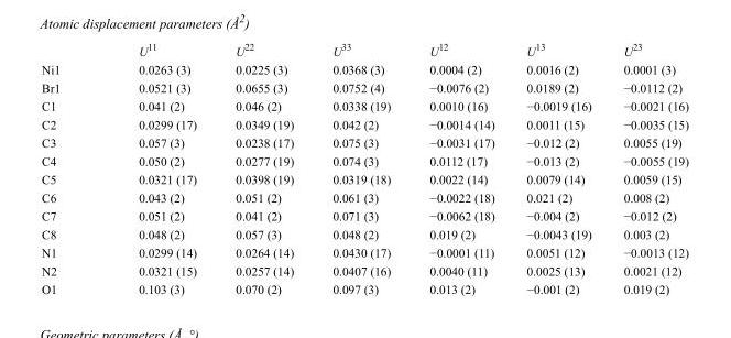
<table><thead><tr><td></td><td>U<sup>11</sup></td><td>U<sup>22</sup></td><td>U<sup>33</sup></td><td>U<sup>12</sup></td><td>U<sup>13</sup></td><td>U<sup>23</sup></td></tr></thead><tbody><tr><td>Ni1</td><td>0.0263 (3)</td><td>0.0225 (3)</td><td>0.0368 (3)</td><td>0.0004 (2)</td><td>0.0016 (2)</td><td>0.0001 (3)</td></tr><tr><td>Br1</td><td>0.0521 (3)</td><td>0.0655 (3)</td><td>0.0752 (4)</td><td>−0.0076 (2)</td><td>0.0189 (2)</td><td>−0.0112 (2)</td></tr><tr><td>C1</td><td>0.041 (2)</td><td>0.046 (2)</td><td>0.0338 (19)</td><td>0.0010 (16)</td><td>−0.0019 (16)</td><td>−0.0021 (16)</td></tr><tr><td>C2</td><td>0.0299 (17)</td><td>0.0349 (19)</td><td>0.042 (2)</td><td>−0.0014 (14)</td><td>0.0011 (15)</td><td>−0.0035 (15)</td></tr><tr><td>C3</td><td>0.057 (3)</td><td>0.0238 (17)</td><td>0.075 (3)</td><td>−0.0031 (17)</td><td>−0.012 (2)</td><td>0.0055 (19)</td></tr><tr><td>C4</td><td>0.050 (2)</td><td>0.0277 (19)</td><td>0.074 (3)</td><td>0.0112 (17)</td><td>−0.013 (2)</td><td>−0.0055 (19)</td></tr><tr><td>C5</td><td>0.0321 (17)</td><td>0.0398 (19)</td><td>0.0319 (18)</td><td>0.0022 (14)</td><td>0.0079 (14)</td><td>0.0059 (15)</td></tr><tr><td>C6</td><td>0.043 (2)</td><td>0.051 (2)</td><td>0.061 (3)</td><td>−0.0022 (18)</td><td>0.021 (2)</td><td>0.008 (2)</td></tr><tr><td>C7</td><td>0.051 (2)</td><td>0.041 (2)</td><td>0.071 (3)</td><td>−0.0062 (18)</td><td>−0.004 (2)</td><td>−0.012 (2)</td></tr><tr><td>C8</td><td>0.048 (2)</td><td>0.057 (3)</td><td>0.048 (2)</td><td>0.019 (2)</td><td>−0.0043 (19)</td><td>0.003 (2)</td></tr><tr><td>N1</td><td>0.0299 (14)</td><td>0.0264 (14)</td><td>0.0430 (17)</td><td>−0.0001 (11)</td><td>0.0051 (12)</td><td>−0.0013 (12)</td></tr><tr><td>N2</td><td>0.0321 (15)</td><td>0.0257 (14)</td><td>0.0407 (16)</td><td>0.0040 (11)</td><td>0.0025 (13)</td><td>0.0021 (12)</td></tr><tr><td>O1</td><td>0.103 (3)</td><td>0.070 (2)</td><td>0.097 (3)</td><td>0.013 (2)</td><td>−0.001 (2)</td><td>0.019 (2)</td></tr></tbody></table>